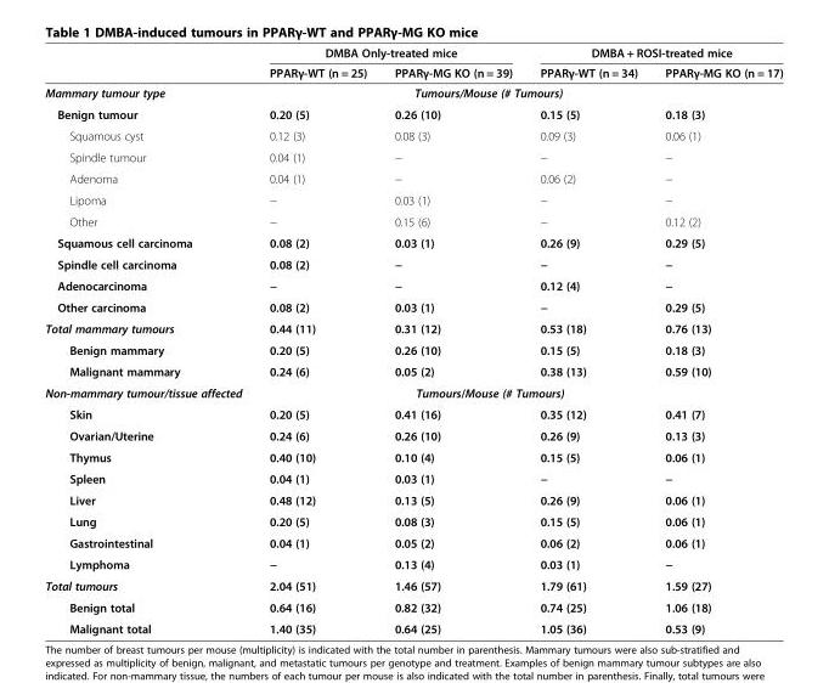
<table><thead><tr><td rowspan="2"></td><td colspan="2">DMBA Only-treated mice</td><td colspan="2">DMBA + ROSI-treated mice</td></tr><tr><td>PPARγ-WT (n = 25)</td><td>PPARγ-MG KO (n = 39)</td><td>PPARγ-WT (n = 34)</td><td>PPARγ-MG KO (n = 17)</td></tr></thead><tbody><tr><td>Mammary tumour type</td><td></td><td colspan="2">Tumours/Mouse (# Tumours)</td><td></td></tr><tr><td>Benign tumour</td><td>0.20 (5)</td><td>0.26 (10)</td><td>0.15 (5)</td><td>0.18 (3)</td></tr><tr><td>Squamous cyst</td><td>0.12 (3)</td><td>0.08 (3)</td><td>0.09 (3)</td><td>0.06 (1)</td></tr><tr><td>Spindle tumour</td><td>0.04 (1)</td><td>−</td><td>−</td><td>−</td></tr><tr><td>Adenoma</td><td>0.04 (1)</td><td>−</td><td>0.06 (2)</td><td>−</td></tr><tr><td>Lipoma</td><td>−</td><td>0.03 (1)</td><td>−</td><td>−</td></tr><tr><td>Other</td><td>−</td><td>0.15 (6)</td><td>−</td><td>0.12 (2)</td></tr><tr><td>Squamous cell carcinoma</td><td>0.08 (2)</td><td>0.03 (1)</td><td>0.26 (9)</td><td>0.29 (5)</td></tr><tr><td>Spindle cell carcinoma</td><td>0.08 (2)</td><td>−</td><td>−</td><td>−</td></tr><tr><td>Adenocarcinoma</td><td>−</td><td>−</td><td>0.12 (4)</td><td>−</td></tr><tr><td>Other carcinoma</td><td>0.08 (2)</td><td>0.03 (1)</td><td>−</td><td>0.29 (5)</td></tr><tr><td>Total mammary tumours</td><td>0.44 (11)</td><td>0.31 (12)</td><td>0.53 (18)</td><td>0.76 (13)</td></tr><tr><td>Benign mammary</td><td>0.20 (5)</td><td>0.26 (10)</td><td>0.15 (5)</td><td>0.18 (3)</td></tr><tr><td>Malignant mammary</td><td>0.24 (6)</td><td>0.05 (2)</td><td>0.38 (13)</td><td>0.59 (10)</td></tr><tr><td>Non-mammary tumour/tissue affected</td><td></td><td colspan="2">Tumours/Mouse (# Tumours)</td><td></td></tr><tr><td>Skin</td><td>0.20 (5)</td><td>0.41 (16)</td><td>0.35 (12)</td><td>0.41 (7)</td></tr><tr><td>Ovarian/Uterine</td><td>0.24 (6)</td><td>0.26 (10)</td><td>0.26 (9)</td><td>0.13 (3)</td></tr><tr><td>Thymus</td><td>0.40 (10)</td><td>0.10 (4)</td><td>0.15 (5)</td><td>0.06 (1)</td></tr><tr><td>Spleen</td><td>0.04 (1)</td><td>0.03 (1)</td><td>−</td><td>−</td></tr><tr><td>Liver</td><td>0.48 (12)</td><td>0.13 (5)</td><td>0.26 (9)</td><td>0.06 (1)</td></tr><tr><td>Lung</td><td>0.20 (5)</td><td>0.08 (3)</td><td>0.15 (5)</td><td>0.06 (1)</td></tr><tr><td>Gastrointestinal</td><td>0.04 (1)</td><td>0.05 (2)</td><td>0.06 (2)</td><td>0.06 (1)</td></tr><tr><td>Lymphoma</td><td>−</td><td>0.13 (4)</td><td>0.03 (1)</td><td>−</td></tr><tr><td>Total tumours</td><td>2.04 (51)</td><td>1.46 (57)</td><td>1.79 (61)</td><td>1.59 (27)</td></tr><tr><td>Benign total</td><td>0.64 (16)</td><td>0.82 (32)</td><td>0.74 (25)</td><td>1.06 (18)</td></tr><tr><td>Malignant total</td><td>1.40 (35)</td><td>0.64 (25)</td><td>1.05 (36)</td><td>0.53 (9)</td></tr></tbody></table>